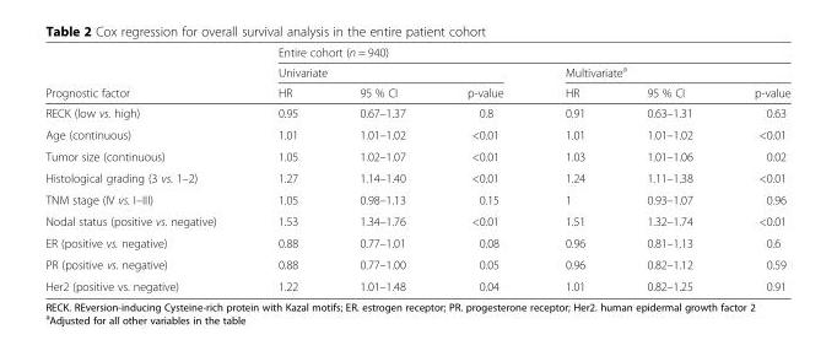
<table><thead><tr><td rowspan="3">Prognostic factor</td><td colspan="6">Entire cohort (n = 940)</td></tr><tr><td colspan="3">Univariate</td><td colspan="3">Multivariate<sup>a</sup></td></tr><tr><td>HR</td><td>95 % CI</td><td>p-value</td><td>HR</td><td>95 % CI</td><td>p-value</td></tr></thead><tbody><tr><td>RECK (low vs. high)</td><td>0.95</td><td>0.67–1.37</td><td>0.8</td><td>0.91</td><td>0.63–1.31</td><td>0.63</td></tr><tr><td>Age (continuous)</td><td>1.01</td><td>1.01–1.02</td><td>&lt;0.01</td><td>1.01</td><td>1.01–1.02</td><td>&lt;0.01</td></tr><tr><td>Tumor size (continuous)</td><td>1.05</td><td>1.02–1.07</td><td>&lt;0.01</td><td>1.03</td><td>1.01–1.06</td><td>0.02</td></tr><tr><td>Histological grading (3 vs. 1–2)</td><td>1.27</td><td>1.14–1.40</td><td>&lt;0.01</td><td>1.24</td><td>1.11–1.38</td><td>&lt;0.01</td></tr><tr><td>TNM stage (IV vs. I–III)</td><td>1.05</td><td>0.98–1.13</td><td>0.15</td><td>1</td><td>0.93–1.07</td><td>0.96</td></tr><tr><td>Nodal status (positive vs. negative)</td><td>1.53</td><td>1.34–1.76</td><td>&lt;0.01</td><td>1.51</td><td>1.32–1.74</td><td>&lt;0.01</td></tr><tr><td>ER (positive vs. negative)</td><td>0.88</td><td>0.77–1.01</td><td>0.08</td><td>0.96</td><td>0.81–1.13</td><td>0.6</td></tr><tr><td>PR (positive vs. negative)</td><td>0.88</td><td>0.77–1.00</td><td>0.05</td><td>0.96</td><td>0.82–1.12</td><td>0.59</td></tr><tr><td>Her2 (positive vs. negative)</td><td>1.22</td><td>1.01–1.48</td><td>0.04</td><td>1.01</td><td>0.82–1.25</td><td>0.91</td></tr></tbody></table>